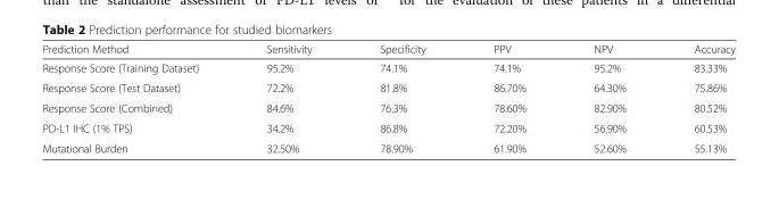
<table><thead><tr><td>Prediction Method</td><td>Sensitivity</td><td>Specificity</td><td>PPV</td><td>NPV</td><td>Accuracy</td></tr></thead><tbody><tr><td>Response Score (Training Dataset)</td><td>95.2%</td><td>74.1%</td><td>74.1%</td><td>95.2%</td><td>83.33%</td></tr><tr><td>Response Score (Test Dataset)</td><td>72.2%</td><td>81.8%</td><td>86.70%</td><td>64.30%</td><td>75.86%</td></tr><tr><td>Response Score (Combined)</td><td>84.6%</td><td>76.3%</td><td>78.60%</td><td>82.90%</td><td>80.52%</td></tr><tr><td>PD-L1 IHC (1% TPS)</td><td>34.2%</td><td>86.8%</td><td>72.20%</td><td>56.90%</td><td>60.53%</td></tr><tr><td>Mutational Burden</td><td>32.50%</td><td>78.90%</td><td>61.90%</td><td>52.60%</td><td>55.13%</td></tr></tbody></table>